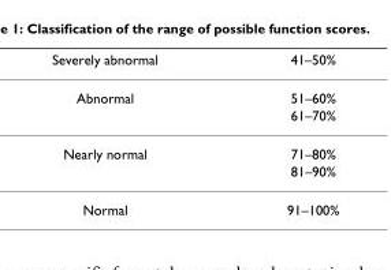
<table><thead><tr><td>Severely abnormal</td><td>41–50%</td></tr></thead><tbody><tr><td rowspan="2">Abnormal</td><td>51–60%</td></tr><tr><td>61–70%</td></tr><tr><td rowspan="2">Nearly normal</td><td>71–80%</td></tr><tr><td>81–90%</td></tr><tr><td>Normal</td><td>91–100%</td></tr></tbody></table>